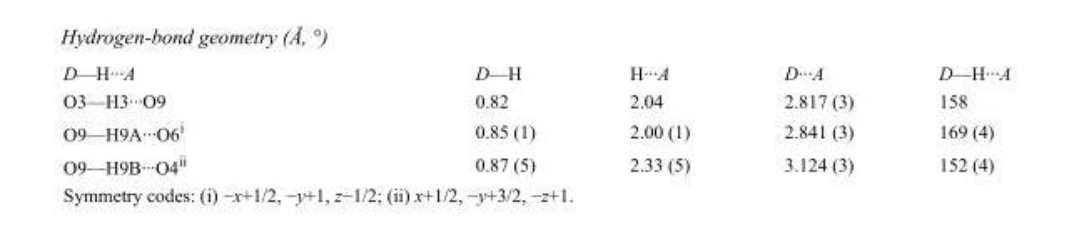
<table><tbody><tr><td>D—H···A</td><td>D—H</td><td>H···A</td><td>D···A</td><td>D—H···A</td></tr><tr><td>O3—H3···O9</td><td>0.82</td><td>2.04</td><td>2.817 (3)</td><td>158</td></tr><tr><td>O9—H9A···O6<sup>i</sup></td><td>0.85 (1)</td><td>2.00 (1)</td><td>2.841 (3)</td><td>169 (4)</td></tr><tr><td>O9—H9B···O4<sup>ii</sup></td><td>0.87 (5)</td><td>2.33 (5)</td><td>3.124 (3)</td><td>152 (4)</td></tr></tbody></table>